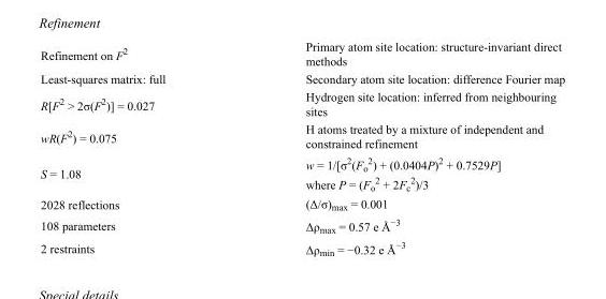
<table><tbody><tr><td>Refinement on F<sup>2</sup></td><td>Primary atom site location: structure-invariant direct methods</td></tr><tr><td>Least-squares matrix: full</td><td>Secondary atom site location: difference Fourier map</td></tr><tr><td>R[F<sup>2</sup> &gt; 2σ(F<sup>2</sup>)] = 0.027</td><td>Hydrogen site location: inferred from neighbouring sites</td></tr><tr><td>wR(F<sup>2</sup>) = 0.075</td><td>H atoms treated by a mixture of independent and constrained refinement</td></tr><tr><td>S = 1.08</td><td>w = 1/[σ<sup>2</sup>(F<sub>o</sub> <sup>2</sup>) + (0.0404P)<sup>2</sup> + 0.7529P] where P = (F<sub>o</sub> <sup>2</sup> + 2F<sub>c</sub> <sup>2</sup>)/3</td></tr><tr><td>2028 reflections</td><td>(Δ/σ)<sub>max</sub> = 0.001</td></tr><tr><td>108 parameters</td><td>Δρ<sub>max</sub> = 0.57 e Å<sup>−3</sup></td></tr><tr><td>2 restraints</td><td>Δρ<sub>min</sub> = −0.32 e Å<sup>−3</sup></td></tr></tbody></table>